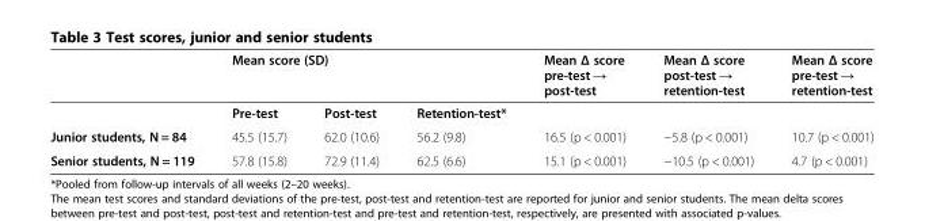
<table><thead><tr><td rowspan="2"></td><td colspan="3">Mean score (SD)</td><td rowspan="2">Mean Δ score pre-test → post-test</td><td rowspan="2">Mean Δ score post-test → retention-test</td><td rowspan="2">Mean Δ score pre-test → retention-test</td></tr><tr><td>Pre-test</td><td>Post-test</td><td>Retention-test*</td></tr></thead><tbody><tr><td>Junior students, N = 84</td><td>45.5 (15.7)</td><td>62.0 (10.6)</td><td>56.2 (9.8)</td><td>16.5 (p &lt; 0.001)</td><td>−5.8 (p &lt; 0.001)</td><td>10.7 (p &lt; 0.001)</td></tr><tr><td>Senior students, N = 119</td><td>57.8 (15.8)</td><td>72.9 (11.4)</td><td>62.5 (6.6)</td><td>15.1 (p &lt; 0.001)</td><td>−10.5 (p &lt; 0.001)</td><td>4.7 (p &lt; 0.001)</td></tr></tbody></table>